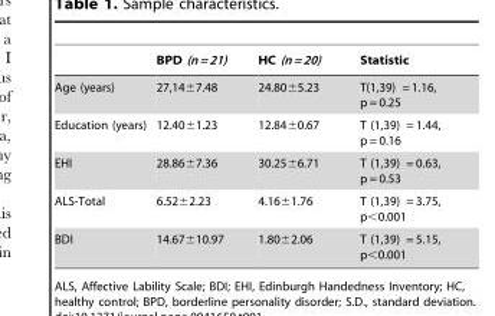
<table><thead><tr><td></td><td>BPD (n = 21)</td><td>HC (n = 20)</td><td>Statistic</td></tr></thead><tbody><tr><td>Age (years)</td><td>27,14±7.48</td><td>24.80±5.23</td><td>T(1,39) = 1.16, p = 0.25</td></tr><tr><td>Education (years)</td><td>12.40±1.23</td><td>12.84±0.67</td><td>T (1,39) = 1.44, p = 0.16</td></tr><tr><td>EHI</td><td>28.86±7.36</td><td>30.25±6.71</td><td>T (1,39) = 0.63, p = 0.53</td></tr><tr><td>ALS-Total</td><td>6.52±2.23</td><td>4.16±1.76</td><td>T (1,39) = 3.75, p&lt;0.001</td></tr><tr><td>BDI</td><td>14.67±10.97</td><td>1.80±2.06</td><td>T (1,39) = 5.15, p&lt;0.001</td></tr></tbody></table>